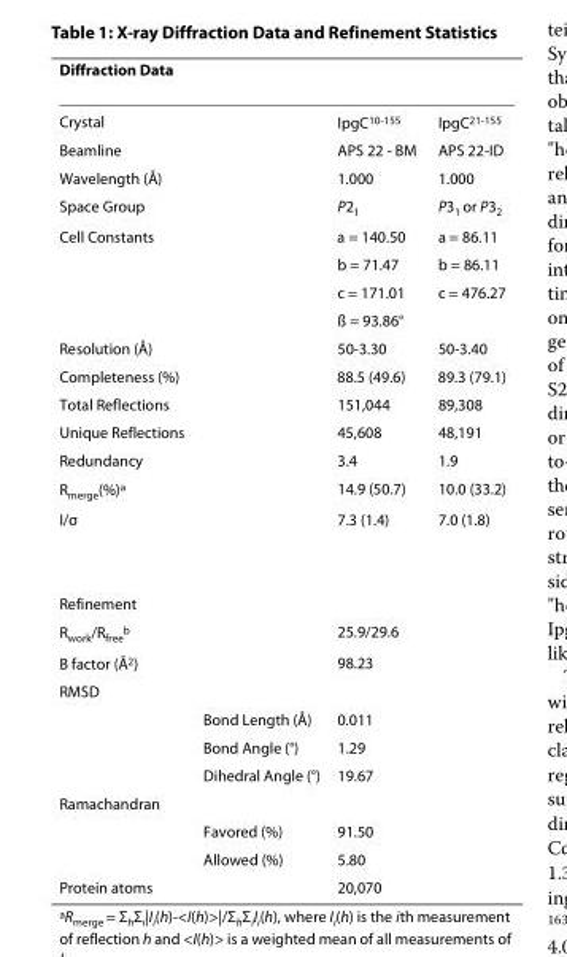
<table><thead><tr><td>Diffraction Data</td><td></td><td></td><td></td></tr></thead><tbody><tr><td>Crystal</td><td></td><td>IpgC<sup>10-155</sup></td><td>IpgC<sup>21-155</sup></td></tr><tr><td>Beamline</td><td></td><td>APS 22 - BM</td><td>APS 22-ID</td></tr><tr><td>Wavelength (Å)</td><td></td><td>1.000</td><td>1.000</td></tr><tr><td>Space Group</td><td></td><td>P2<sub>1</sub></td><td>P3<sub>1</sub> or P3<sub>2</sub></td></tr><tr><td rowspan="4">Cell Constants</td><td></td><td>a = 140.50</td><td>a = 86.11</td></tr><tr><td></td><td>b = 71.47</td><td>b = 86.11</td></tr><tr><td></td><td>c = 171.01</td><td>c = 476.27</td></tr><tr><td></td><td>ß = 93.86°</td><td></td></tr><tr><td>Resolution (Å)</td><td></td><td>50-3.30</td><td>50-3.40</td></tr><tr><td>Completeness (%)</td><td></td><td>88.5 (49.6)</td><td>89.3 (79.1)</td></tr><tr><td>Total Reflections</td><td></td><td>151,044</td><td>89,308</td></tr><tr><td colspan="2">Unique Reflections</td><td>45,608</td><td>48,191</td></tr><tr><td>Redundancy</td><td></td><td>3.4</td><td>1.9</td></tr><tr><td>R<sub>merge</sub>(%)<sup>a</sup></td><td></td><td>14.9 (50.7)</td><td>10.0 (33.2)</td></tr><tr><td>I/σ</td><td></td><td>7.3 (1.4)</td><td>7.0 (1.8)</td></tr><tr><td colspan="4">Refinement</td></tr><tr><td>R<sub>work</sub>/R<sub>free</sub><sup>b</sup></td><td></td><td>25.9/29.6</td><td></td></tr><tr><td>B factor (Å<sup>2</sup>)</td><td></td><td>98.23</td><td></td></tr><tr><td colspan="4">RMSD</td></tr><tr><td></td><td>Bond Length (Å)</td><td>0.011</td><td></td></tr><tr><td></td><td>Bond Angle (°)</td><td>1.29</td><td></td></tr><tr><td></td><td>Dihedral Angle (°)</td><td>19.67</td><td></td></tr><tr><td colspan="4">Ramachandran</td></tr><tr><td></td><td>Favored (%)</td><td>91.50</td><td></td></tr><tr><td></td><td>Allowed (%)</td><td>5.80</td><td></td></tr><tr><td>Protein atoms</td><td></td><td>20,070</td><td></td></tr></tbody></table>